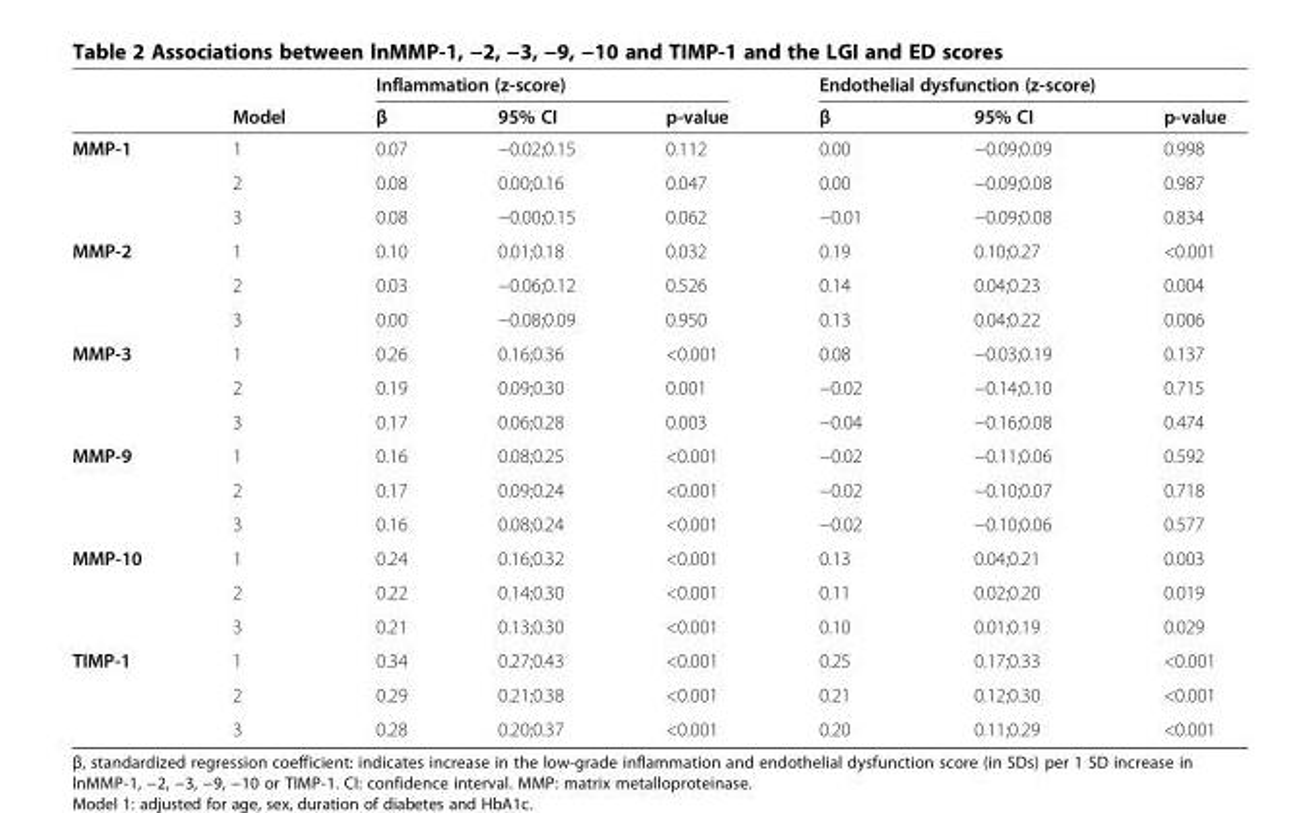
<table><thead><tr><td rowspan="2"></td><td rowspan="2">Model</td><td colspan="3">Inflammation (z-score)</td><td colspan="3">Endothelial dysfunction (z-score)</td></tr><tr><td>β</td><td>95% CI</td><td>p-value</td><td>β</td><td>95% CI</td><td>p-value</td></tr></thead><tbody><tr><td rowspan="3">MMP-1</td><td>1</td><td>0.07</td><td>−0.02;0.15</td><td>0.112</td><td>0.00</td><td>−0.09;0.09</td><td>0.998</td></tr><tr><td>2</td><td>0.08</td><td>0.00;0.16</td><td>0.047</td><td>0.00</td><td>−0.09;0.08</td><td>0.987</td></tr><tr><td>3</td><td>0.08</td><td>−0.00;0.15</td><td>0.062</td><td>−0.01</td><td>−0.09;0.08</td><td>0.834</td></tr><tr><td rowspan="3">MMP-2</td><td>1</td><td>0.10</td><td>0.01;0.18</td><td>0.032</td><td>0.19</td><td>0.10;0.27</td><td>&lt;0.001</td></tr><tr><td>2</td><td>0.03</td><td>−0.06;0.12</td><td>0.526</td><td>0.14</td><td>0.04;0.23</td><td>0.004</td></tr><tr><td>3</td><td>0.00</td><td>−0.08;0.09</td><td>0.950</td><td>0.13</td><td>0.04;0.22</td><td>0.006</td></tr><tr><td rowspan="3">MMP-3</td><td>1</td><td>0.26</td><td>0.16;0.36</td><td>&lt;0.001</td><td>0.08</td><td>−0.03;0.19</td><td>0.137</td></tr><tr><td>2</td><td>0.19</td><td>0.09;0.30</td><td>0.001</td><td>−0.02</td><td>−0.14;0.10</td><td>0.715</td></tr><tr><td>3</td><td>0.17</td><td>0.06;0.28</td><td>0.003</td><td>−0.04</td><td>−0.16;0.08</td><td>0.474</td></tr><tr><td rowspan="3">MMP-9</td><td>1</td><td>0.16</td><td>0.08;0.25</td><td>&lt;0.001</td><td>−0.02</td><td>−0.11;0.06</td><td>0.592</td></tr><tr><td>2</td><td>0.17</td><td>0.09;0.24</td><td>&lt;0.001</td><td>−0.02</td><td>−0.10;0.07</td><td>0.718</td></tr><tr><td>3</td><td>0.16</td><td>0.08;0.24</td><td>&lt;0.001</td><td>−0.02</td><td>−0.10;0.06</td><td>0.577</td></tr><tr><td rowspan="3">MMP-10</td><td>1</td><td>0.24</td><td>0.16;0.32</td><td>&lt;0.001</td><td>0.13</td><td>0.04;0.21</td><td>0.003</td></tr><tr><td>2</td><td>0.22</td><td>0.14;0.30</td><td>&lt;0.001</td><td>0.11</td><td>0.02;0.20</td><td>0.019</td></tr><tr><td>3</td><td>0.21</td><td>0.13;0.30</td><td>&lt;0.001</td><td>0.10</td><td>0.01;0.19</td><td>0.029</td></tr><tr><td rowspan="3">TIMP-1</td><td>1</td><td>0.34</td><td>0.27;0.43</td><td>&lt;0.001</td><td>0.25</td><td>0.17;0.33</td><td>&lt;0.001</td></tr><tr><td>2</td><td>0.29</td><td>0.21;0.38</td><td>&lt;0.001</td><td>0.21</td><td>0.12;0.30</td><td>&lt;0.001</td></tr><tr><td>3</td><td>0.28</td><td>0.20;0.37</td><td>&lt;0.001</td><td>0.20</td><td>0.11;0.29</td><td>&lt;0.001</td></tr></tbody></table>